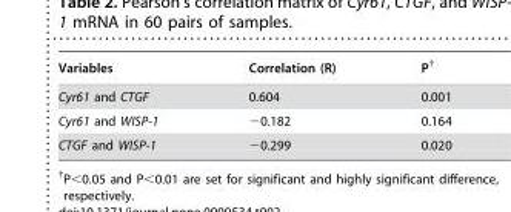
<table><thead><tr><td>Variables</td><td>Correlation (R)</td><td>P†</td></tr></thead><tbody><tr><td>Cyr61 and CTGF</td><td>0.604</td><td>0.001</td></tr><tr><td>Cyr61 and WISP-1</td><td>−0.182</td><td>0.164</td></tr><tr><td>CTGF and WISP-1</td><td>−0.299</td><td>0.020</td></tr></tbody></table>